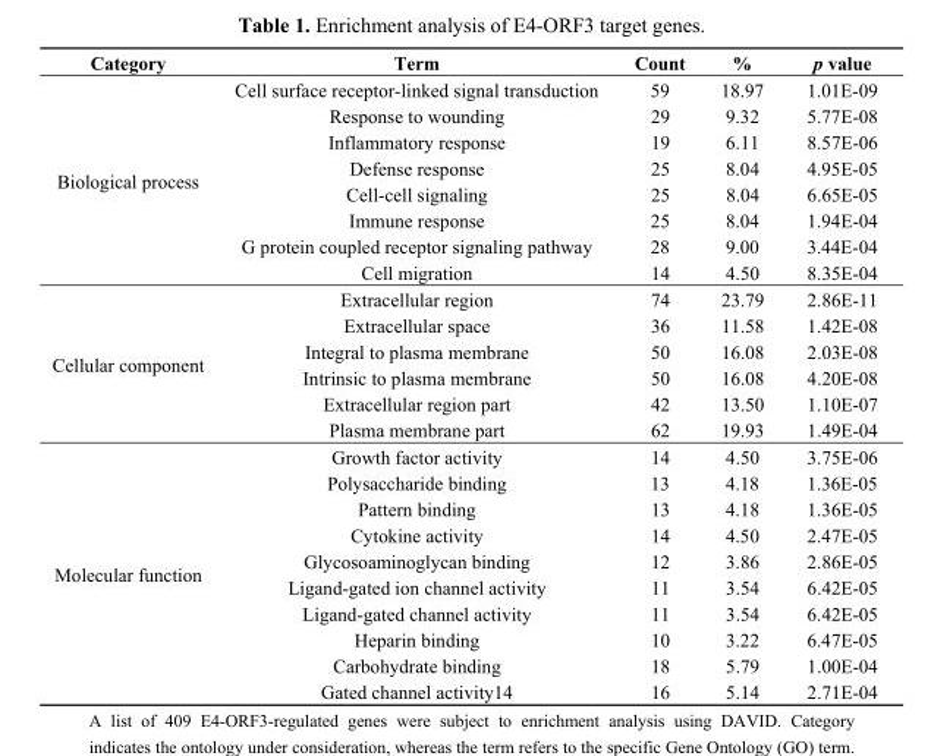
<table><thead><tr><td>Category</td><td>Term</td><td>Count</td><td>%</td><td>p value</td></tr></thead><tbody><tr><td rowspan="8">Biological process</td><td>Cell surface receptor-linked signal transduction</td><td>59</td><td>18.97</td><td>1.01E-09</td></tr><tr><td>Response to wounding</td><td>29</td><td>9.32</td><td>5.77E-08</td></tr><tr><td>Inflammatory response</td><td>19</td><td>6.11</td><td>8.57E-06</td></tr><tr><td>Defense response</td><td>25</td><td>8.04</td><td>4.95E-05</td></tr><tr><td>Cell-cell signaling</td><td>25</td><td>8.04</td><td>6.65E-05</td></tr><tr><td>Immune response</td><td>25</td><td>8.04</td><td>1.94E-04</td></tr><tr><td>G protein coupled receptor signaling pathway</td><td>28</td><td>9.00</td><td>3.44E-04</td></tr><tr><td>Cell migration</td><td>14</td><td>4.50</td><td>8.35E-04</td></tr><tr><td rowspan="6">Cellular component</td><td>Extracellular region</td><td>74</td><td>23.79</td><td>2.86E-11</td></tr><tr><td>Extracellular space</td><td>36</td><td>11.58</td><td>1.42E-08</td></tr><tr><td>Integral to plasma membrane</td><td>50</td><td>16.08</td><td>2.03E-08</td></tr><tr><td>Intrinsic to plasma membrane</td><td>50</td><td>16.08</td><td>4.20E-08</td></tr><tr><td>Extracellular region part</td><td>42</td><td>13.50</td><td>1.10E-07</td></tr><tr><td>Plasma membrane part</td><td>62</td><td>19.93</td><td>1.49E-04</td></tr><tr><td rowspan="10">Molecular function</td><td>Growth factor activity</td><td>14</td><td>4.50</td><td>3.75E-06</td></tr><tr><td>Polysaccharide binding</td><td>13</td><td>4.18</td><td>1.36E-05</td></tr><tr><td>Pattern binding</td><td>13</td><td>4.18</td><td>1.36E-05</td></tr><tr><td>Cytokine activity</td><td>14</td><td>4.50</td><td>2.47E-05</td></tr><tr><td>Glycosoaminoglycan binding</td><td>12</td><td>3.86</td><td>2.86E-05</td></tr><tr><td>Ligand-gated ion channel activity</td><td>11</td><td>3.54</td><td>6.42E-05</td></tr><tr><td>Ligand-gated channel activity</td><td>11</td><td>3.54</td><td>6.42E-05</td></tr><tr><td>Heparin binding</td><td>10</td><td>3.22</td><td>6.47E-05</td></tr><tr><td>Carbohydrate binding</td><td>18</td><td>5.79</td><td>1.00E-04</td></tr><tr><td>Gated channel activity14</td><td>16</td><td>5.14</td><td>2.71E-04</td></tr></tbody></table>